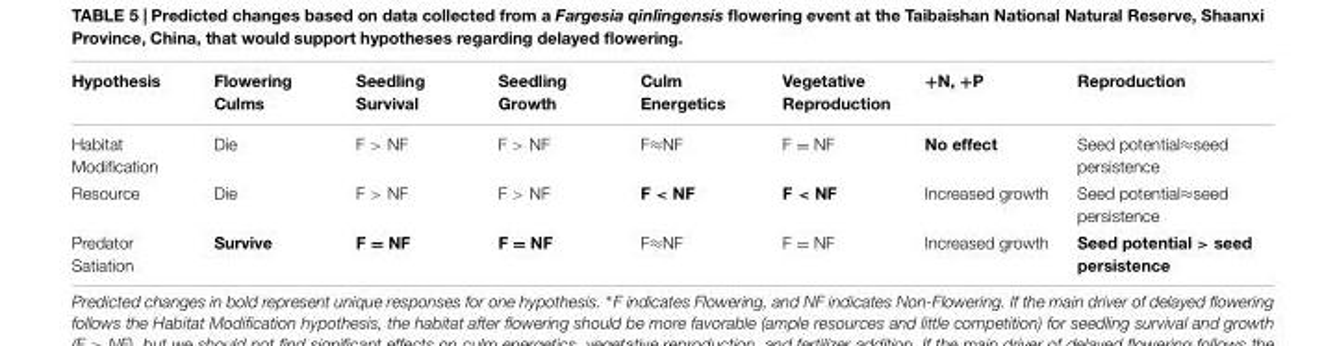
<table><thead><tr><td>Hypothesis</td><td>Flowering Culms</td><td>Seedling Survival</td><td>Seedling Growth</td><td>Culm Energetics</td><td>Vegetative Reproduction</td><td>+N, +P</td><td>Reproduction</td></tr></thead><tbody><tr><td>Habitat Modification</td><td>Die</td><td>F &gt; NF</td><td>F &gt; NF</td><td>F≈NF</td><td>F = NF</td><td>No effect</td><td>Seed potential≈seed persistence</td></tr><tr><td>Resource</td><td>Die</td><td>F &gt; NF</td><td>F &gt; NF</td><td>F &lt; NF</td><td>F &lt; NF</td><td>Increased growth</td><td>Seed potential≈seed persistence</td></tr><tr><td>Predator Satiation</td><td>Survive</td><td>F = NF</td><td>F = NF</td><td>F≈NF</td><td>F = NF</td><td>Increased growth</td><td>Seed potential &gt; seed persistence</td></tr></tbody></table>